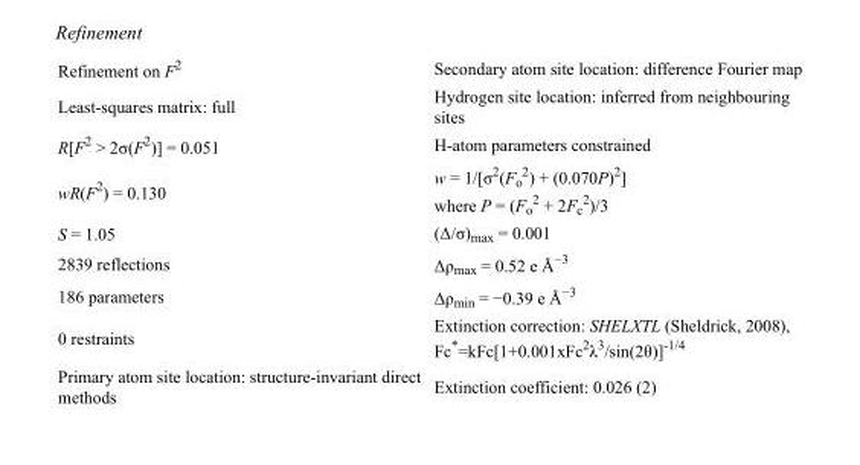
<table><tbody><tr><td>Refinement on F<sup>2</sup></td><td>Secondary atom site location: difference Fourier map</td></tr><tr><td>Least-squares matrix: full</td><td>Hydrogen site location: inferred from neighbouring sites</td></tr><tr><td>R[F<sup>2</sup> &gt; 2σ(F<sup>2</sup>)] = 0.051</td><td>H-atom parameters constrained</td></tr><tr><td>wR(F<sup>2</sup>) = 0.130</td><td>w = 1/[σ<sup>2</sup>(F<sub>o</sub> <sup>2</sup>) + (0.070P)<sup>2</sup>] where P = (F<sub>o</sub> <sup>2</sup> + 2F<sub>c</sub> <sup>2</sup>)/3</td></tr><tr><td>S = 1.05</td><td>(Δ/σ)<sub>max</sub> = 0.001</td></tr><tr><td>2839 reflections</td><td>Δρ<sub>max</sub> = 0.52 e Å<sup>−3</sup></td></tr><tr><td>186 parameters</td><td>Δρ<sub>min</sub> = −0.39 e Å<sup>−3</sup></td></tr><tr><td>0 restraints</td><td>Extinction correction: SHELXTL (Sheldrick, 2008), Fc*=kFc[1+0.001xFc<sup>2</sup>λ<sup>3</sup>/sin(2θ)]<sup>-1/4</sup></td></tr><tr><td>Primary atom site location: structure-invariant direct methods</td><td>Extinction coefficient: 0.026 (2)</td></tr></tbody></table>